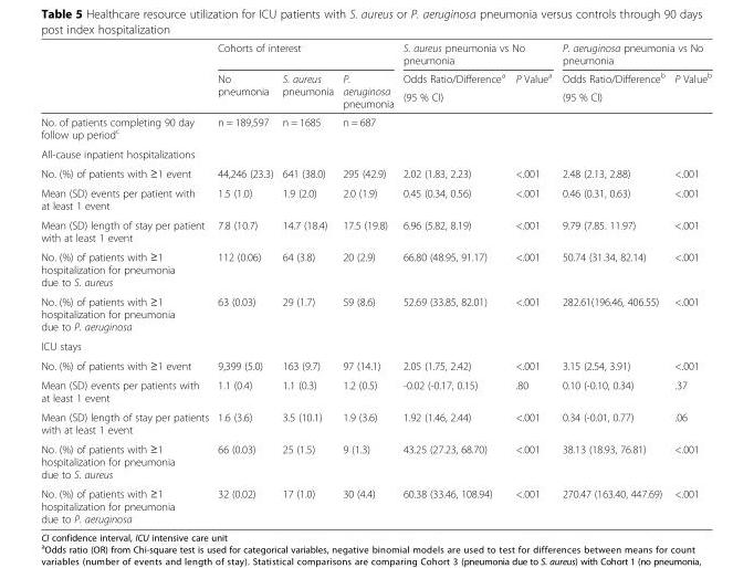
<table><thead><tr><td rowspan="3"></td><td colspan="3">Cohorts of interest</td><td colspan="2">S. aureus pneumonia vs No pneumonia</td><td colspan="2">P. aeruginosa pneumonia vs No pneumonia</td></tr><tr><td rowspan="2">No pneumonia</td><td rowspan="2">S. aureus pneumonia</td><td rowspan="2">P. aeruginosa pneumonia</td><td rowspan="2">Odds Ratio/Difference<sup>a</sup> (95 % CI)</td><td rowspan="2">P Value<sup>a</sup></td><td rowspan="2">Odds Ratio/Difference<sup>b</sup> (95 % CI)</td><td rowspan="2">P Value<sup>b</sup></td></tr><tr></tr></thead><tbody><tr><td>No. of patients completing 90 day follow up period<sup>c</sup></td><td>n = 189,597</td><td>n = 1685</td><td>n = 687</td><td></td><td></td><td></td><td></td></tr><tr><td colspan="8">All-cause inpatient hospitalizations</td></tr><tr><td>No. (%) of patients with ≥1 event</td><td>44,246 (23.3)</td><td>641 (38.0)</td><td>295 (42.9)</td><td>2.02 (1.83, 2.23)</td><td>&lt;.001</td><td>2.48 (2.13, 2.88)</td><td>&lt;.001</td></tr><tr><td>Mean (SD) events per patient with at least 1 event</td><td>1.5 (1.0)</td><td>1.9 (2.0)</td><td>2.0 (1.9)</td><td>0.45 (0.34, 0.56)</td><td>&lt;.001</td><td>0.46 (0.31, 0.63)</td><td>&lt;.001</td></tr><tr><td>Mean (SD) length of stay per patient with at least 1 event</td><td>7.8 (10.7)</td><td>14.7 (18.4)</td><td>17.5 (19.8)</td><td>6.96 (5.82, 8.19)</td><td>&lt;.001</td><td>9.79 (7.85. 11.97)</td><td>&lt;.001</td></tr><tr><td>No. (%) of patients with ≥1 hospitalization for pneumonia due to S. aureus</td><td>112 (0.06)</td><td>64 (3.8)</td><td>20 (2.9)</td><td>66.80 (48.95, 91.17)</td><td>&lt;.001</td><td>50.74 (31.34, 82.14)</td><td>&lt;.001</td></tr><tr><td>No. (%) of patients with ≥1 hospitalization for pneumonia due to P. aeruginosa</td><td>63 (0.03)</td><td>29 (1.7)</td><td>59 (8.6)</td><td>52.69 (33.85, 82.01)</td><td>&lt;.001</td><td>282.61(196.46, 406.55)</td><td>&lt;.001</td></tr><tr><td colspan="8">ICU stays</td></tr><tr><td>No. (%) of patients with ≥1 event</td><td>9,399 (5.0)</td><td>163 (9.7)</td><td>97 (14.1)</td><td>2.05 (1.75, 2.42)</td><td>&lt;.001</td><td>3.15 (2.54, 3.91)</td><td>&lt;.001</td></tr><tr><td>Mean (SD) events per patients with at least 1 event</td><td>1.1 (0.4)</td><td>1.1 (0.3)</td><td>1.2 (0.5)</td><td>-0.02 (-0.17, 0.15)</td><td>.80</td><td>0.10 (-0.10, 0.34)</td><td>.37</td></tr><tr><td>Mean (SD) length of stay per patients with at least 1 event</td><td>1.6 (3.6)</td><td>3.5 (10.1)</td><td>1.9 (3.6)</td><td>1.92 (1.46, 2.44)</td><td>&lt;.001</td><td>0.34 (-0.01, 0.77)</td><td>.06</td></tr><tr><td>No. (%) of patients with ≥1 hospitalization for pneumonia due to S. aureus</td><td>66 (0.03)</td><td>25 (1.5)</td><td>9 (1.3)</td><td>43.25 (27.23, 68.70)</td><td>&lt;.001</td><td>38.13 (18.93, 76.81)</td><td>&lt;.001</td></tr><tr><td>No. (%) of patients with ≥1 hospitalization for pneumonia due to P. aeruginosa</td><td>32 (0.02)</td><td>17 (1.0)</td><td>30 (4.4)</td><td>60.38 (33.46, 108.94)</td><td>&lt;.001</td><td>270.47 (163.40, 447.69)</td><td>&lt;.001</td></tr></tbody></table>